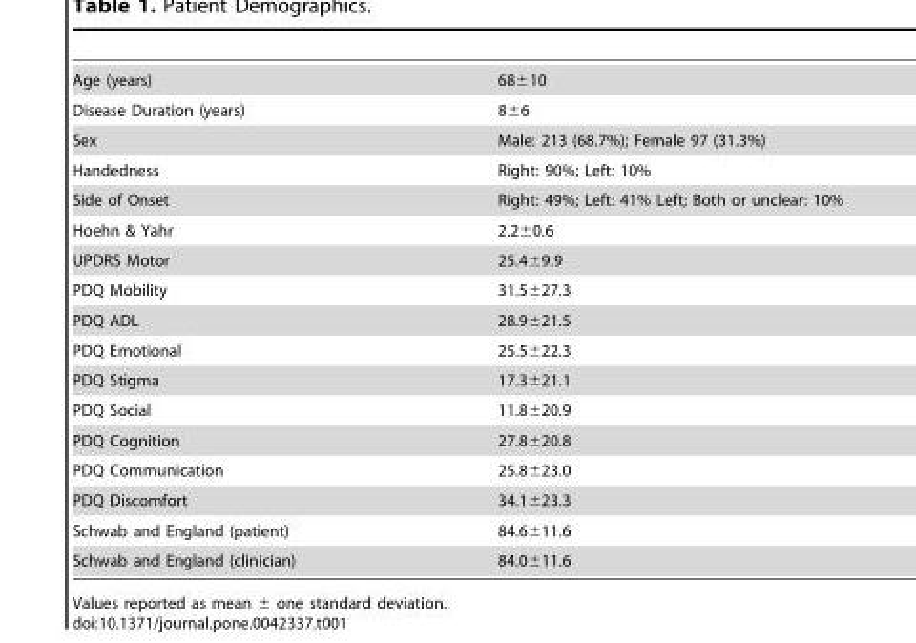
<table><tbody><tr><td>Age (years)</td><td>68±10</td></tr><tr><td>Disease Duration (years)</td><td>8±6</td></tr><tr><td>Sex</td><td>Male: 213 (68.7%); Female 97 (31.3%)</td></tr><tr><td>Handedness</td><td>Right: 90%; Left: 10%</td></tr><tr><td>Side of Onset</td><td>Right: 49%; Left: 41% Left; Both or unclear: 10%</td></tr><tr><td>Hoehn &amp; Yahr</td><td>2.2±0.6</td></tr><tr><td>UPDRS Motor</td><td>25.4±9.9</td></tr><tr><td>PDQ Mobility</td><td>31.5±27.3</td></tr><tr><td>PDQ ADL</td><td>28.9±21.5</td></tr><tr><td>PDQ Emotional</td><td>25.5±22.3</td></tr><tr><td>PDQ Stigma</td><td>17.3±21.1</td></tr><tr><td>PDQ Social</td><td>11.8±20.9</td></tr><tr><td>PDQ Cognition</td><td>27.8±20.8</td></tr><tr><td>PDQ Communication</td><td>25.8±23.0</td></tr><tr><td>PDQ Discomfort</td><td>34.1±23.3</td></tr><tr><td>Schwab and England (patient)</td><td>84.6±11.6</td></tr><tr><td>Schwab and England (clinician)</td><td>84.0±11.6</td></tr></tbody></table>